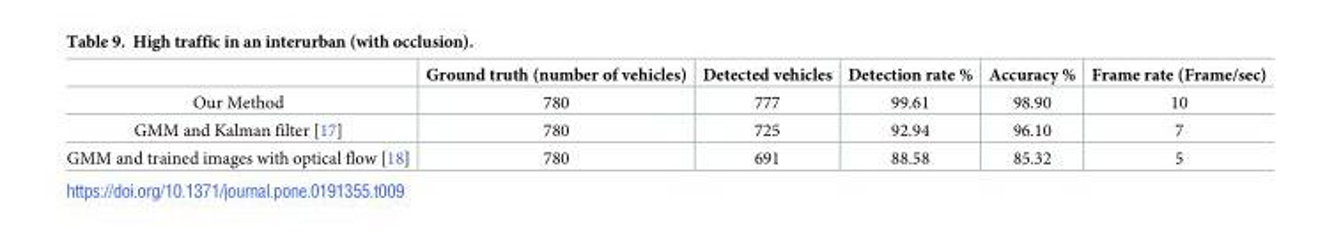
<table><thead><tr><td></td><td>Ground truth (number of vehicles)</td><td>Detected vehicles</td><td>Detection rate %</td><td>Accuracy %</td><td>Frame rate (Frame/sec)</td></tr></thead><tbody><tr><td>Our Method</td><td>780</td><td>777</td><td>99.61</td><td>98.90</td><td>10</td></tr><tr><td>GMM and Kalman filter [17]</td><td>780</td><td>725</td><td>92.94</td><td>96.10</td><td>7</td></tr><tr><td>GMM and trained images with optical flow [18]</td><td>780</td><td>691</td><td>88.58</td><td>85.32</td><td>5</td></tr></tbody></table>